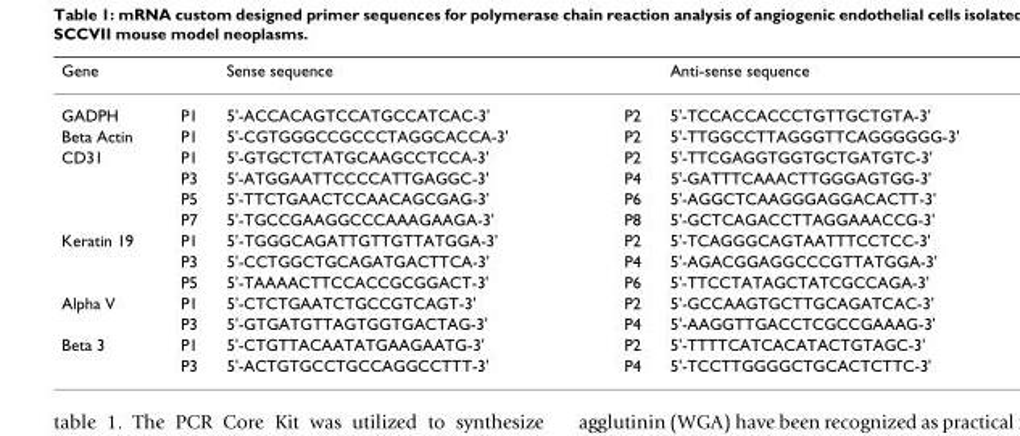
<table><thead><tr><td>Gene</td><td></td><td>Sense sequence</td><td></td><td>Anti-sense sequence</td></tr></thead><tbody><tr><td>GADPH</td><td>P1</td><td>5&#x27;-ACCACAGTCCATGCCATCAC-3&#x27;</td><td>P2</td><td>5&#x27;-TCCACCACCCTGTTGCTGTA-3&#x27;</td></tr><tr><td>Beta Actin</td><td>P1</td><td>5&#x27;-CGTGGGCCGCCCTAGGCACCA-3&#x27;</td><td>P2</td><td>5&#x27;-TTGGCCTTAGGGTTCAGGGGGG-3&#x27;</td></tr><tr><td rowspan="4">CD31</td><td>P1</td><td>5&#x27;-GTGCTCTATGCAAGCCTCCA-3&#x27;</td><td>P2</td><td>5&#x27;-TTCGAGGTGGTGCTGATGTC-3&#x27;</td></tr><tr><td>P3</td><td>5&#x27;-ATGGAATTCCCCATTGAGGC-3&#x27;</td><td>P4</td><td>5&#x27;-GATTTCAAACTTGGGAGTGG-3&#x27;</td></tr><tr><td>P5</td><td>5&#x27;-TTCTGAACTCCAACAGCGAG-3&#x27;</td><td>P6</td><td>5&#x27;-AGGCTCAAGGGAGGACACTT-3&#x27;</td></tr><tr><td>P7</td><td>5&#x27;-TGCCGAAGGCCCAAAGAAGA-3&#x27;</td><td>P8</td><td>5&#x27;-GCTCAGACCTTAGGAAACCG-3&#x27;</td></tr><tr><td rowspan="3">Keratin 19</td><td>P1</td><td>5&#x27;-TGGGCAGATTGTTGTTATGGA-3&#x27;</td><td>P2</td><td>5&#x27;-TCAGGGCAGTAATTTCCTCC-3&#x27;</td></tr><tr><td>P3</td><td>5&#x27;-CCTGGCTGCAGATGACTTCA-3&#x27;</td><td>P4</td><td>5&#x27;-AGACGGAGGCCCGTTATGGA-3&#x27;</td></tr><tr><td>P5</td><td>5&#x27;-TAAAACTTCCACCGCGGACT-3&#x27;</td><td>P6</td><td>5&#x27;-TTCCTATAGCTATCGCCAGA-3&#x27;</td></tr><tr><td rowspan="2">Alpha V</td><td>P1</td><td>5&#x27;-CTCTGAATCTGCCGTCAGT-3&#x27;</td><td>P2</td><td>5&#x27;-GCCAAGTGCTTGCAGATCAC-3&#x27;</td></tr><tr><td>P3</td><td>5&#x27;-GTGATGTTAGTGGTGACTAG-3&#x27;</td><td>P4</td><td>5&#x27;-AAGGTTGACCTCGCCGAAAG-3&#x27;</td></tr><tr><td rowspan="2">Beta 3</td><td>P1</td><td>5&#x27;-CTGTTACAATATGAAGAATG-3&#x27;</td><td>P2</td><td>5&#x27;-TTTTCATCACATACTGTAGC-3&#x27;</td></tr><tr><td>P3</td><td>5&#x27;-ACTGTGCCTGCCAGGCCTTT-3&#x27;</td><td>P4</td><td>5&#x27;-TCCTTGGGGCTGCACTCTTC-3&#x27;</td></tr></tbody></table>